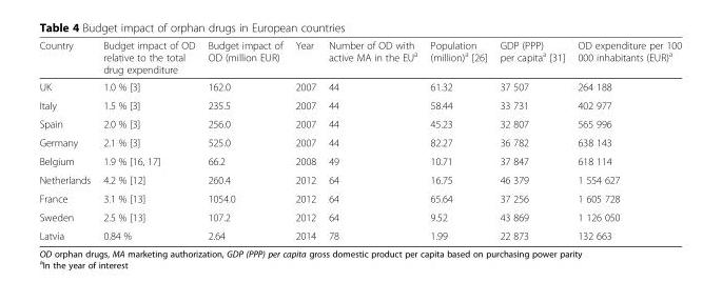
<table><thead><tr><td>Country</td><td>Budget impact of OD relative to the total drug expenditure</td><td>Budget impact of OD (million EUR)</td><td>Year</td><td>Number of OD with active MA in the EU<sup>a</sup></td><td>Population (million)<sup>a</sup> [26]</td><td>GDP (PPP) per capita<sup>a</sup> [31]</td><td>OD expenditure per 100 000 inhabitants (EUR)<sup>a</sup></td></tr></thead><tbody><tr><td>UK</td><td>1.0 % [3]</td><td>162.0</td><td>2007</td><td>44</td><td>61.32</td><td>37 507</td><td>264 188</td></tr><tr><td>Italy</td><td>1.5 % [3]</td><td>235.5</td><td>2007</td><td>44</td><td>58.44</td><td>33 731</td><td>402 977</td></tr><tr><td>Spain</td><td>2.0 % [3]</td><td>256.0</td><td>2007</td><td>44</td><td>45.23</td><td>32 807</td><td>565 996</td></tr><tr><td>Germany</td><td>2.1 % [3]</td><td>525.0</td><td>2007</td><td>44</td><td>82.27</td><td>36 782</td><td>638 143</td></tr><tr><td>Belgium</td><td>1.9 % [16, 17]</td><td>66.2</td><td>2008</td><td>49</td><td>10.71</td><td>37 847</td><td>618 114</td></tr><tr><td>Netherlands</td><td>4.2 % [12]</td><td>260.4</td><td>2012</td><td>64</td><td>16.75</td><td>46 379</td><td>1 554 627</td></tr><tr><td>France</td><td>3.1 % [13]</td><td>1054.0</td><td>2012</td><td>64</td><td>65.64</td><td>37 256</td><td>1 605 728</td></tr><tr><td>Sweden</td><td>2.5 % [13]</td><td>107.2</td><td>2012</td><td>64</td><td>9.52</td><td>43 869</td><td>1 126 050</td></tr><tr><td>Latvia</td><td>0.84 %</td><td>2.64</td><td>2014</td><td>78</td><td>1.99</td><td>22 873</td><td>132 663</td></tr></tbody></table>